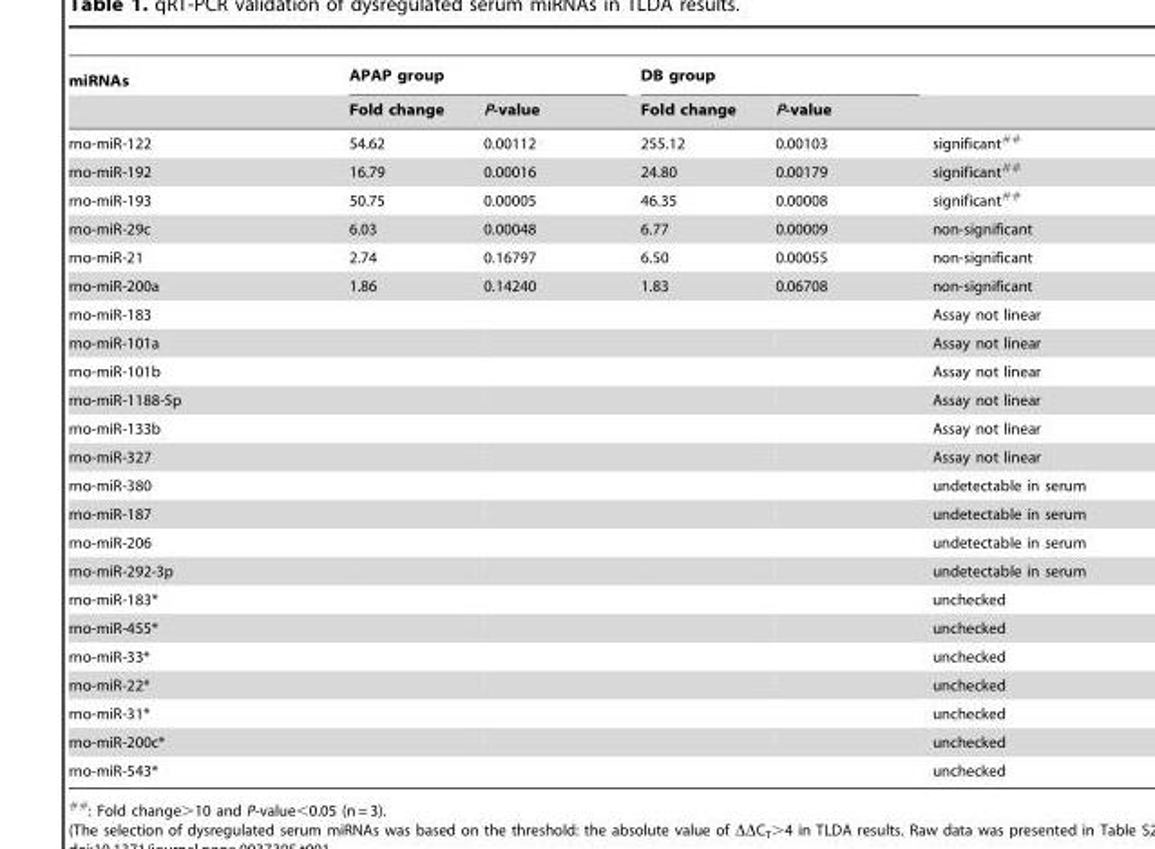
<table><thead><tr><td rowspan="2">miRNAs</td><td colspan="2">APAP group</td><td colspan="2">DB group</td><td rowspan="2"></td></tr><tr><td>Fold change</td><td>P-value</td><td>Fold change</td><td>P-value</td></tr></thead><tbody><tr><td>rno-miR-122</td><td>54.62</td><td>0.00112</td><td>255.12</td><td>0.00103</td><td>significant##</td></tr><tr><td>rno-miR-192</td><td>16.79</td><td>0.00016</td><td>24.80</td><td>0.00179</td><td>significant##</td></tr><tr><td>rno-miR-193</td><td>50.75</td><td>0.00005</td><td>46.35</td><td>0.00008</td><td>significant##</td></tr><tr><td>rno-miR-29c</td><td>6.03</td><td>0.00048</td><td>6.77</td><td>0.00009</td><td>non-significant</td></tr><tr><td>rno-miR-21</td><td>2.74</td><td>0.16797</td><td>6.50</td><td>0.00055</td><td>non-significant</td></tr><tr><td>rno-miR-200a</td><td>1.86</td><td>0.14240</td><td>1.83</td><td>0.06708</td><td>non-significant</td></tr><tr><td>rno-miR-183</td><td></td><td></td><td></td><td></td><td>Assay not linear</td></tr><tr><td>rno-miR-101a</td><td></td><td></td><td></td><td></td><td>Assay not linear</td></tr><tr><td>rno-miR-101b</td><td></td><td></td><td></td><td></td><td>Assay not linear</td></tr><tr><td>rno-miR-1188-5p</td><td></td><td></td><td></td><td></td><td>Assay not linear</td></tr><tr><td>rno-miR-133b</td><td></td><td></td><td></td><td></td><td>Assay not linear</td></tr><tr><td>rno-miR-327</td><td></td><td></td><td></td><td></td><td>Assay not linear</td></tr><tr><td>rno-miR-380</td><td></td><td></td><td></td><td></td><td>undetectable in serum</td></tr><tr><td>rno-miR-187</td><td></td><td></td><td></td><td></td><td>undetectable in serum</td></tr><tr><td>rno-miR-206</td><td></td><td></td><td></td><td></td><td>undetectable in serum</td></tr><tr><td>rno-miR-292-3p</td><td></td><td></td><td></td><td></td><td>undetectable in serum</td></tr><tr><td>rno-miR-183*</td><td></td><td></td><td></td><td></td><td>unchecked</td></tr><tr><td>rno-miR-455*</td><td></td><td></td><td></td><td></td><td>unchecked</td></tr><tr><td>rno-miR-33*</td><td></td><td></td><td></td><td></td><td>unchecked</td></tr><tr><td>rno-miR-22*</td><td></td><td></td><td></td><td></td><td>unchecked</td></tr><tr><td>rno-miR-31*</td><td></td><td></td><td></td><td></td><td>unchecked</td></tr><tr><td>rno-miR-200c*</td><td></td><td></td><td></td><td></td><td>unchecked</td></tr><tr><td>rno-miR-543*</td><td></td><td></td><td></td><td></td><td>unchecked</td></tr></tbody></table>